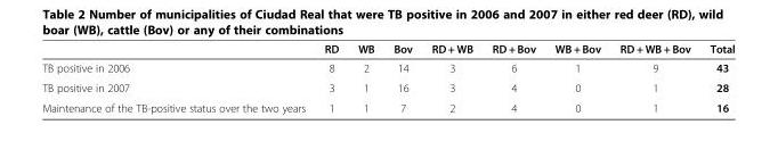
<table><thead><tr><td></td><td>RD</td><td>WB</td><td>Bov</td><td>RD + WB</td><td>RD + Bov</td><td>WB + Bov</td><td>RD + WB + Bov</td><td>Total</td></tr></thead><tbody><tr><td>TB positive in 2006</td><td>8</td><td>2</td><td>14</td><td>3</td><td>6</td><td>1</td><td>9</td><td>43</td></tr><tr><td>TB positive in 2007</td><td>3</td><td>1</td><td>16</td><td>3</td><td>4</td><td>0</td><td>1</td><td>28</td></tr><tr><td>Maintenance of the TB-positive status over the two years</td><td>1</td><td>1</td><td>7</td><td>2</td><td>4</td><td>0</td><td>1</td><td>16</td></tr></tbody></table>